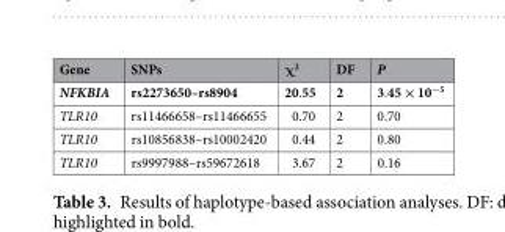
<table><thead><tr><td>Gene</td><td>SNPs</td><td>χ<sup>2</sup></td><td>DF</td><td>P</td></tr></thead><tbody><tr><td>NFKBIA</td><td>rs2273650–rs8904</td><td>20.55</td><td>2</td><td>3.45 × 10<sup>−5</sup></td></tr><tr><td>TLR10</td><td>rs11466658–rs11466655</td><td>0.70</td><td>2</td><td>0.70</td></tr><tr><td>TLR10</td><td>rs10856838–rs10002420</td><td>0.44</td><td>2</td><td>0.80</td></tr><tr><td>TLR10</td><td>rs9997988–rs59672618</td><td>3.67</td><td>2</td><td>0.16</td></tr></tbody></table>